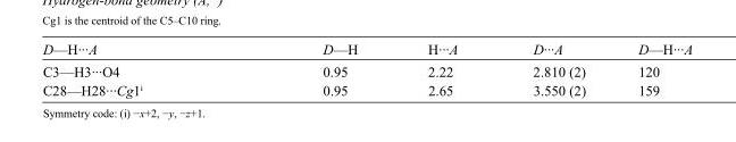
<table><tbody><tr><td>D—H···A</td><td>D—H</td><td>H···A</td><td>D···A</td><td>D—H···A</td></tr><tr><td>C3—H3···O4</td><td>0.95</td><td>2.22</td><td>2.810 (2)</td><td>120</td></tr><tr><td>C28—H28···Cg1<sup>i</sup></td><td>0.95</td><td>2.65</td><td>3.550 (2)</td><td>159</td></tr></tbody></table>